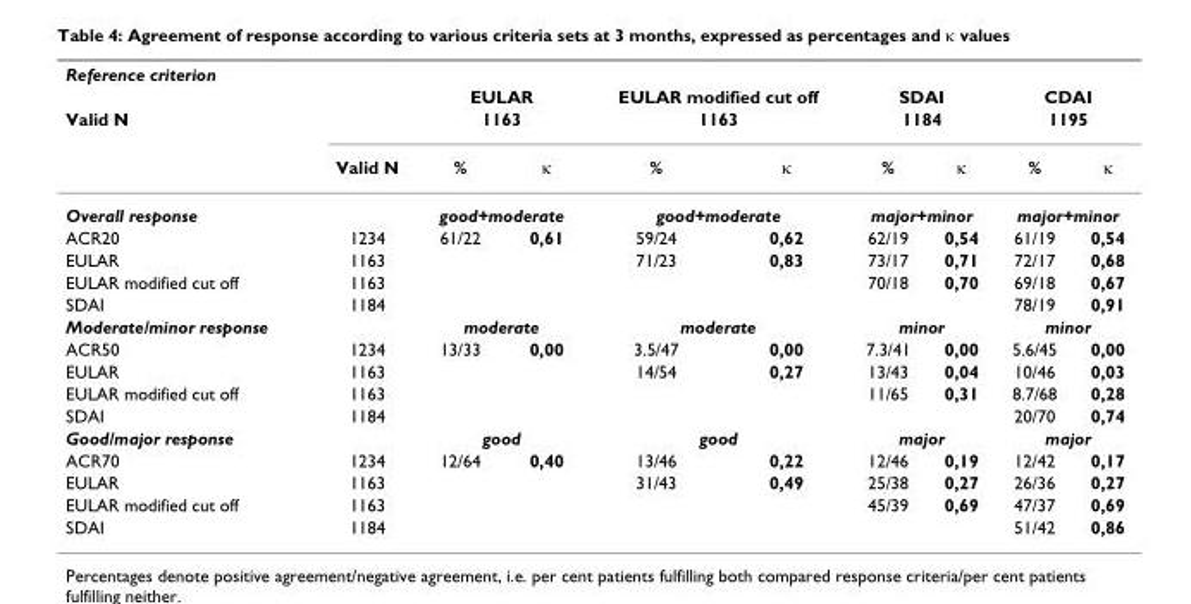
<table><thead><tr><td rowspan="4">Reference criterion Valid N</td><td rowspan="4">Valid N</td><td></td><td></td><td></td><td></td><td></td><td></td><td></td><td></td></tr><tr><td rowspan="2" colspan="2">EULAR 1163</td><td rowspan="2" colspan="2">EULAR modified cut off 1163</td><td rowspan="2" colspan="2">SDAI 1184</td><td rowspan="2" colspan="2">CDAI 1195</td></tr><tr></tr><tr><td>%</td><td>κ</td><td>%</td><td>κ</td><td>%</td><td>κ</td><td>%</td><td>κ</td></tr></thead><tbody><tr><td>Overall response</td><td></td><td colspan="2">good+moderate</td><td colspan="2">good+moderate</td><td colspan="2">major+minor</td><td colspan="2">major+minor</td></tr><tr><td>ACR20</td><td>1234</td><td>61/22</td><td>0,61</td><td>59/24</td><td>0,62</td><td>62/19</td><td>0,54</td><td>61/19</td><td>0,54</td></tr><tr><td>EULAR</td><td>1163</td><td></td><td></td><td>71/23</td><td>0,83</td><td>73/17</td><td>0,71</td><td>72/17</td><td>0,68</td></tr><tr><td>EULAR modified cut off</td><td>1163</td><td></td><td></td><td></td><td></td><td>70/18</td><td>0,70</td><td>69/18</td><td>0,67</td></tr><tr><td>SDAI</td><td>1184</td><td></td><td></td><td></td><td></td><td></td><td></td><td>78/19</td><td>0,91</td></tr><tr><td>Moderate/minor response</td><td></td><td colspan="2">moderate</td><td colspan="2">moderate</td><td colspan="2">minor</td><td colspan="2">minor</td></tr><tr><td>ACR50</td><td>1234</td><td>13/33</td><td>0,00</td><td>3.5/47</td><td>0,00</td><td>7.3/41</td><td>0,00</td><td>5.6/45</td><td>0,00</td></tr><tr><td>EULAR</td><td>1163</td><td></td><td></td><td>14/54</td><td>0,27</td><td>13/43</td><td>0,04</td><td>10/46</td><td>0,03</td></tr><tr><td>EULAR modified cut off</td><td>1163</td><td></td><td></td><td></td><td></td><td>11/65</td><td>0,31</td><td>8.7/68</td><td>0,28</td></tr><tr><td>SDAI</td><td>1184</td><td></td><td></td><td></td><td></td><td></td><td></td><td>20/70</td><td>0,74</td></tr><tr><td>Good/major response</td><td></td><td colspan="2">good</td><td colspan="2">good</td><td colspan="2">major</td><td colspan="2">major</td></tr><tr><td>ACR70</td><td>1234</td><td>12/64</td><td>0,40</td><td>13/46</td><td>0,22</td><td>12/46</td><td>0,19</td><td>12/42</td><td>0,17</td></tr><tr><td>EULAR</td><td>1163</td><td></td><td></td><td>31/43</td><td>0,49</td><td>25/38</td><td>0,27</td><td>26/36</td><td>0,27</td></tr><tr><td>EULAR modified cut off</td><td>1163</td><td></td><td></td><td></td><td></td><td>45/39</td><td>0,69</td><td>47/37</td><td>0,69</td></tr><tr><td>SDAI</td><td>1184</td><td></td><td></td><td></td><td></td><td></td><td></td><td>51/42</td><td>0,86</td></tr></tbody></table>